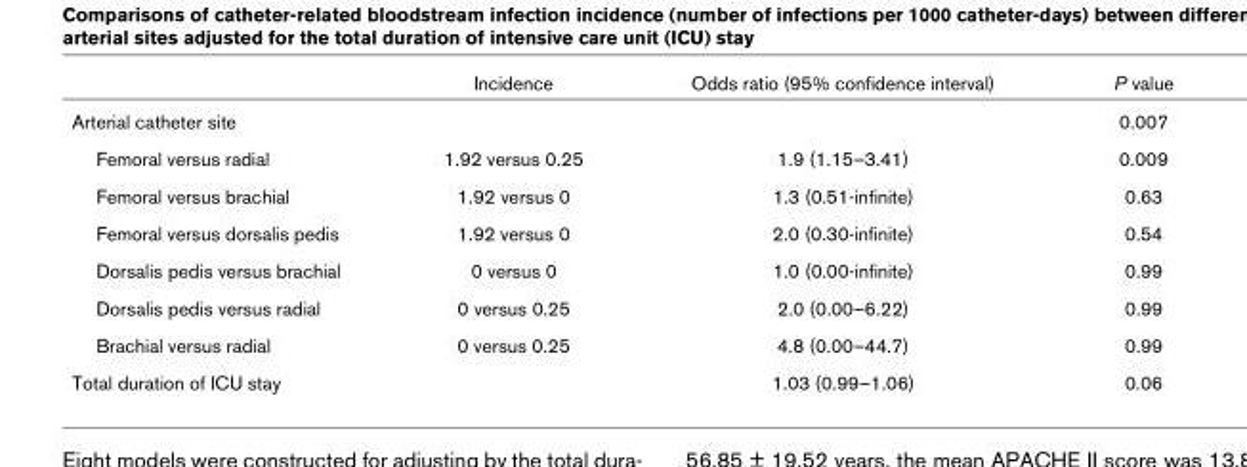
<table><thead><tr><td></td><td>Incidence</td><td>Odds ratio (95% confidence interval)</td><td>P value</td></tr></thead><tbody><tr><td>Arterial catheter site</td><td></td><td></td><td>0.007</td></tr><tr><td>Femoral versus radial</td><td>1.92 versus 0.25</td><td>1.9 (1.15–3.41)</td><td>0.009</td></tr><tr><td>Femoral versus brachial</td><td>1.92 versus 0</td><td>1.3 (0.51-infinite)</td><td>0.63</td></tr><tr><td>Femoral versus dorsalis pedis</td><td>1.92 versus 0</td><td>2.0 (0.30-infinite)</td><td>0.54</td></tr><tr><td>Dorsalis pedis versus brachial</td><td>0 versus 0</td><td>1.0 (0.00-infinite)</td><td>0.99</td></tr><tr><td>Dorsalis pedis versus radial</td><td>0 versus 0.25</td><td>2.0 (0.00–6.22)</td><td>0.99</td></tr><tr><td>Brachial versus radial</td><td>0 versus 0.25</td><td>4.8 (0.00–44.7)</td><td>0.99</td></tr><tr><td>Total duration of ICU stay</td><td></td><td>1.03 (0.99–1.06)</td><td>0.06</td></tr></tbody></table>